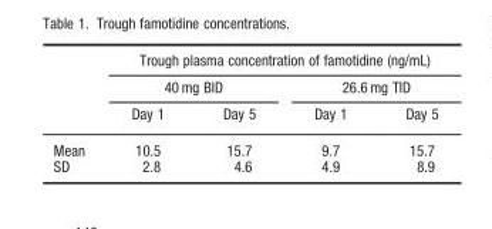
<table><thead><tr><td rowspan="3"></td><td colspan="4">Trough plasma concentration of famotidine (ng/mL)</td></tr><tr><td colspan="2">40 mg BID</td><td colspan="2">26.6 mg TID</td></tr><tr><td>Day 1</td><td>Day 5</td><td>Day 1</td><td>Day 5</td></tr></thead><tbody><tr><td>Mean</td><td>10.5</td><td>15.7</td><td>9.7</td><td>15.7</td></tr><tr><td>SD</td><td>2.8</td><td>4.6</td><td>4.9</td><td>8.9</td></tr></tbody></table>